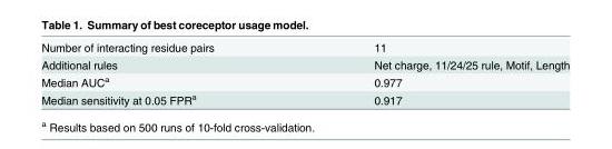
<table><tbody><tr><td>Number of interacting residue pairs</td><td>11</td></tr><tr><td>Additional rules</td><td>Net charge, 11/24/25 rule, Motif, Length</td></tr><tr><td>Median AUC<sup>a</sup></td><td>0.977</td></tr><tr><td>Median sensitivity at 0.05 FPR<sup>a</sup></td><td>0.917</td></tr></tbody></table>